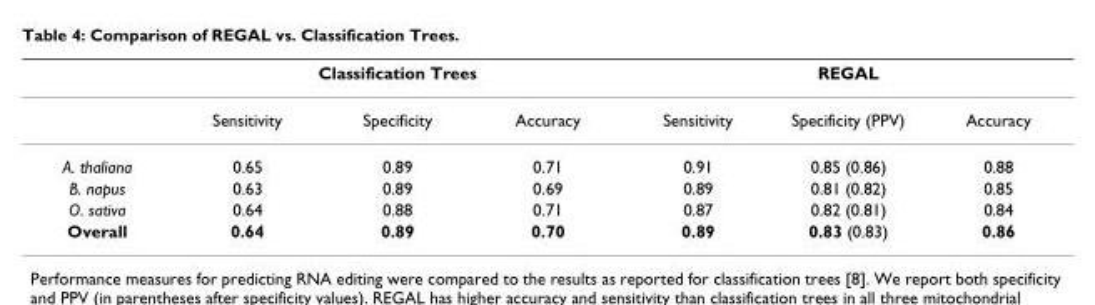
<table><thead><tr><td rowspan="2"></td><td colspan="3">Classification Trees</td><td colspan="3">REGAL</td></tr><tr><td>Sensitivity</td><td>Specificity</td><td>Accuracy</td><td>Sensitivity</td><td>Specificity (PPV)</td><td>Accuracy</td></tr></thead><tbody><tr><td>A. thaliana</td><td>0.65</td><td>0.89</td><td>0.71</td><td>0.91</td><td>0.85 (0.86)</td><td>0.88</td></tr><tr><td>B. napus</td><td>0.63</td><td>0.89</td><td>0.69</td><td>0.89</td><td>0.81 (0.82)</td><td>0.85</td></tr><tr><td>O. sativa</td><td>0.64</td><td>0.88</td><td>0.71</td><td>0.87</td><td>0.82 (0.81)</td><td>0.84</td></tr><tr><td>Overall</td><td>0.64</td><td>0.89</td><td>0.70</td><td>0.89</td><td>0.83 (0.83)</td><td>0.86</td></tr></tbody></table>